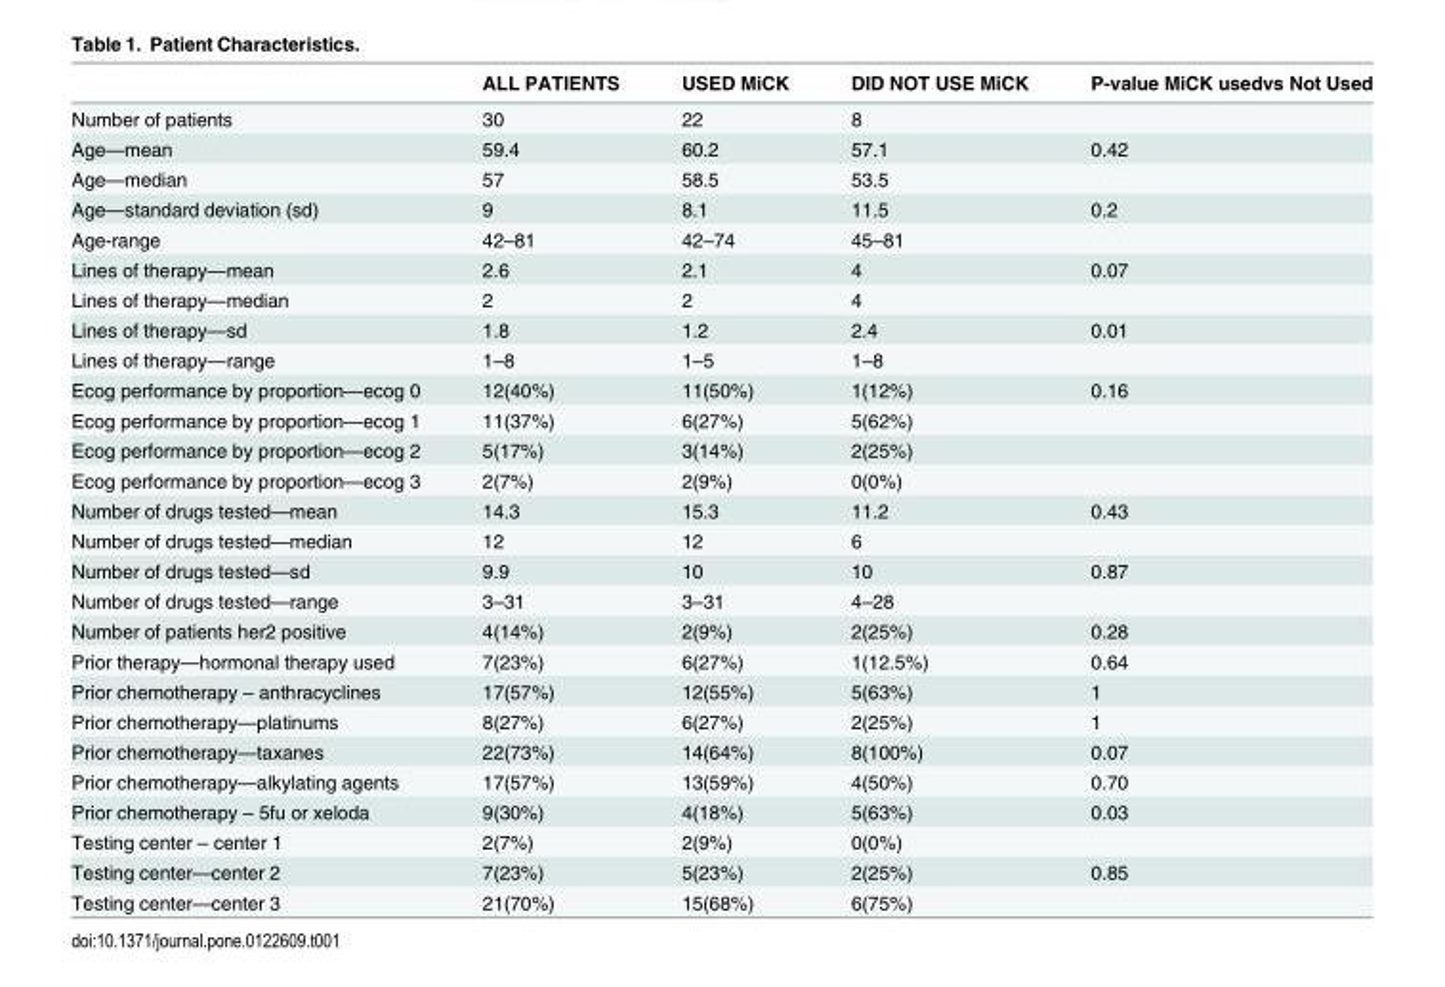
<table><thead><tr><td></td><td>ALL PATIENTS</td><td>USED MiCK</td><td>DID NOT USE MiCK</td><td>P-value MiCK usedvs Not Used</td></tr></thead><tbody><tr><td>Number of patients</td><td>30</td><td>22</td><td>8</td><td></td></tr><tr><td>Age—mean</td><td>59.4</td><td>60.2</td><td>57.1</td><td>0.42</td></tr><tr><td>Age—median</td><td>57</td><td>58.5</td><td>53.5</td><td></td></tr><tr><td>Age—standard deviation (sd)</td><td>9</td><td>8.1</td><td>11.5</td><td>0.2</td></tr><tr><td>Age-range</td><td>42–81</td><td>42–74</td><td>45–81</td><td></td></tr><tr><td>Lines of therapy—mean</td><td>2.6</td><td>2.1</td><td>4</td><td>0.07</td></tr><tr><td>Lines of therapy—median</td><td>2</td><td>2</td><td>4</td><td></td></tr><tr><td>Lines of therapy—sd</td><td>1.8</td><td>1.2</td><td>2.4</td><td>0.01</td></tr><tr><td>Lines of therapy—range</td><td>1–8</td><td>1–5</td><td>1–8</td><td></td></tr><tr><td>Ecog performance by proportion—ecog 0</td><td>12(40%)</td><td>11(50%)</td><td>1(12%)</td><td>0.16</td></tr><tr><td>Ecog performance by proportion—ecog 1</td><td>11(37%)</td><td>6(27%)</td><td>5(62%)</td><td></td></tr><tr><td>Ecog performance by proportion—ecog 2</td><td>5(17%)</td><td>3(14%)</td><td>2(25%)</td><td></td></tr><tr><td>Ecog performance by proportion—ecog 3</td><td>2(7%)</td><td>2(9%)</td><td>0(0%)</td><td></td></tr><tr><td>Number of drugs tested—mean</td><td>14.3</td><td>15.3</td><td>11.2</td><td>0.43</td></tr><tr><td>Number of drugs tested—median</td><td>12</td><td>12</td><td>6</td><td></td></tr><tr><td>Number of drugs tested—sd</td><td>9.9</td><td>10</td><td>10</td><td>0.87</td></tr><tr><td>Number of drugs tested—range</td><td>3–31</td><td>3–31</td><td>4–28</td><td></td></tr><tr><td>Number of patients her2 positive</td><td>4(14%)</td><td>2(9%)</td><td>2(25%)</td><td>0.28</td></tr><tr><td>Prior therapy—hormonal therapy used</td><td>7(23%)</td><td>6(27%)</td><td>1(12.5%)</td><td>0.64</td></tr><tr><td>Prior chemotherapy – anthracyclines</td><td>17(57%)</td><td>12(55%)</td><td>5(63%)</td><td>1</td></tr><tr><td>Prior chemotherapy—platinums</td><td>8(27%)</td><td>6(27%)</td><td>2(25%)</td><td>1</td></tr><tr><td>Prior chemotherapy—taxanes</td><td>22(73%)</td><td>14(64%)</td><td>8(100%)</td><td>0.07</td></tr><tr><td>Prior chemotherapy—alkylating agents</td><td>17(57%)</td><td>13(59%)</td><td>4(50%)</td><td>0.70</td></tr><tr><td>Prior chemotherapy – 5fu or xeloda</td><td>9(30%)</td><td>4(18%)</td><td>5(63%)</td><td>0.03</td></tr><tr><td>Testing center – center 1</td><td>2(7%)</td><td>2(9%)</td><td>0(0%)</td><td></td></tr><tr><td>Testing center—center 2</td><td>7(23%)</td><td>5(23%)</td><td>2(25%)</td><td>0.85</td></tr><tr><td>Testing center—center 3</td><td>21(70%)</td><td>15(68%)</td><td>6(75%)</td><td></td></tr></tbody></table>